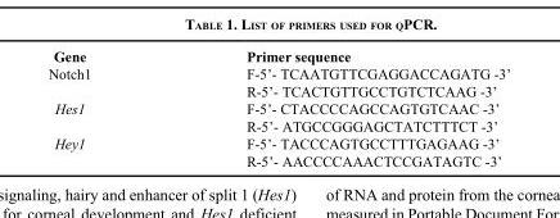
<table><thead><tr><td>Gene</td><td>Primer sequence</td></tr></thead><tbody><tr><td rowspan="2">Notch1</td><td>F-5’- TCAATGTTCGAGGACCAGATG -3’</td></tr><tr><td>R-5’- TCACTGTTGCCTGTCTCAAG -3’</td></tr><tr><td rowspan="2">Hes1</td><td>F-5’- CTACCCCAGCCAGTGTCAAC -3’</td></tr><tr><td>R-5’- ATGCCGGGAGCTATCTTTCT -3’</td></tr><tr><td rowspan="2">Hey1</td><td>F-5’- TACCCAGTGCCTTTGAGAAG -3’</td></tr><tr><td>R-5’- AACCCCAAACTCCGATAGTC -3’</td></tr></tbody></table>